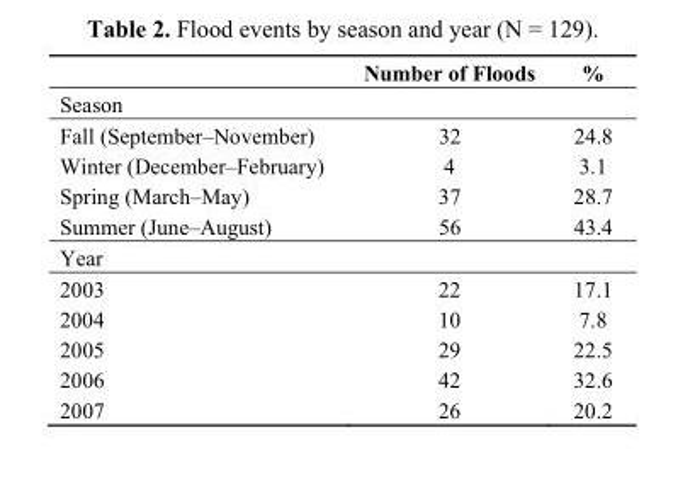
<table><thead><tr><td></td><td>Number of Floods</td><td>%</td></tr></thead><tbody><tr><td colspan="3">Season</td></tr><tr><td>Fall (September–November)</td><td>32</td><td>24.8</td></tr><tr><td>Winter (December–February)</td><td>4</td><td>3.1</td></tr><tr><td>Spring (March–May)</td><td>37</td><td>28.7</td></tr><tr><td>Summer (June–August)</td><td>56</td><td>43.4</td></tr><tr><td colspan="3">Year</td></tr><tr><td>2003</td><td>22</td><td>17.1</td></tr><tr><td>2004</td><td>10</td><td>7.8</td></tr><tr><td>2005</td><td>29</td><td>22.5</td></tr><tr><td>2006</td><td>42</td><td>32.6</td></tr><tr><td>2007</td><td>26</td><td>20.2</td></tr></tbody></table>